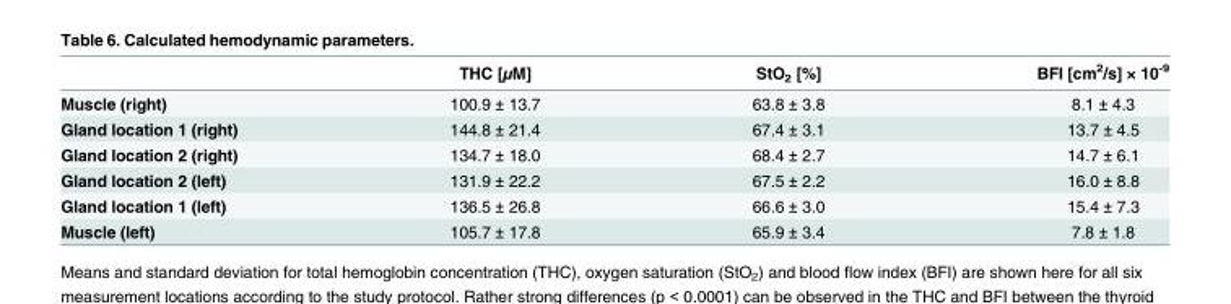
<table><thead><tr><td></td><td>THC [μM]</td><td>StO<sub>2</sub> [%]</td><td>BFI [cm<sup>2</sup>/s] × 10<sup>-9</sup></td></tr></thead><tbody><tr><td>Muscle (right)</td><td>100.9 ± 13.7</td><td>63.8 ± 3.8</td><td>8.1 ± 4.3</td></tr><tr><td>Gland location 1 (right)</td><td>144.8 ± 21.4</td><td>67.4 ± 3.1</td><td>13.7 ± 4.5</td></tr><tr><td>Gland location 2 (right)</td><td>134.7 ± 18.0</td><td>68.4 ± 2.7</td><td>14.7 ± 6.1</td></tr><tr><td>Gland location 2 (left)</td><td>131.9 ± 22.2</td><td>67.5 ± 2.2</td><td>16.0 ± 8.8</td></tr><tr><td>Gland location 1 (left)</td><td>136.5 ± 26.8</td><td>66.6 ± 3.0</td><td>15.4 ± 7.3</td></tr><tr><td>Muscle (left)</td><td>105.7 ± 17.8</td><td>65.9 ± 3.4</td><td>7.8 ± 1.8</td></tr></tbody></table>